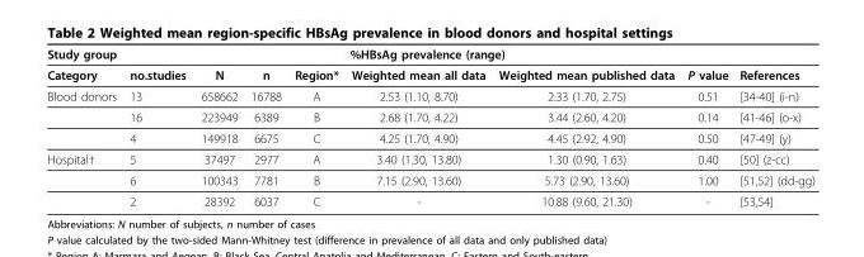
<table><thead><tr><td rowspan="2">Study group Category</td><td rowspan="2">no.studies</td><td rowspan="2">N</td><td rowspan="2">n</td><td rowspan="2">Region*</td><td colspan="2">%HBsAg prevalence (range)</td><td rowspan="2">P value</td><td rowspan="2">References</td></tr><tr><td>Weighted mean all data</td><td>Weighted mean published data</td></tr></thead><tbody><tr><td rowspan="3">Blood donors</td><td>13</td><td>658662</td><td>16788</td><td>A</td><td>2.53 (1.10, 8.70)</td><td>2.33 (1.70, 2.75)</td><td>0.51</td><td>[34-40] (i-n)</td></tr><tr><td>16</td><td>223949</td><td>6389</td><td>B</td><td>2.68 (1.70, 4.22)</td><td>3.44 (2.60, 4.20)</td><td>0.14</td><td>[41-46] (o-x)</td></tr><tr><td>4</td><td>149918</td><td>6675</td><td>C</td><td>4.25 (1.70, 4.90)</td><td>4.45 (2.92, 4.90)</td><td>0.50</td><td>[47-49] (y)</td></tr><tr><td rowspan="3">Hospital†</td><td>5</td><td>37497</td><td>2977</td><td>A</td><td>3.40 (1.30, 13.80)</td><td>1.30 (0.90, 1.63)</td><td>0.40</td><td>[50] (z-cc)</td></tr><tr><td>6</td><td>100343</td><td>7781</td><td>B</td><td>7.15 (2.90, 13.60)</td><td>5.73 (2.90, 13.60)</td><td>1.00</td><td>[51,52] (dd-gg)</td></tr><tr><td>2</td><td>28392</td><td>6037</td><td>C</td><td>-</td><td>10.88 (9.60, 21.30)</td><td>-</td><td>[53,54]</td></tr></tbody></table>